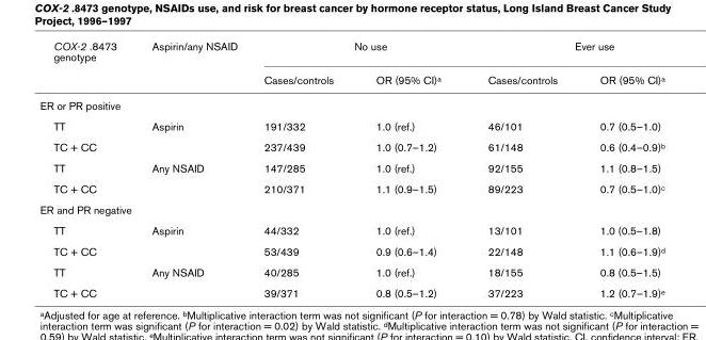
<table><thead><tr><td rowspan="2">COX-2 .8473 genotype</td><td rowspan="2">Aspirin/any NSAID</td><td colspan="2">No use</td><td colspan="2">Ever use</td></tr><tr><td>Cases/controls</td><td>OR (95% CI)a</td><td>Cases/controls</td><td>OR (95% CI)a</td></tr></thead><tbody><tr><td colspan="6">ER or PR positive</td></tr><tr><td>TT</td><td>Aspirin</td><td>191/332</td><td>1.0 (ref.)</td><td>46/101</td><td>0.7 (0.5–1.0)</td></tr><tr><td>TC + CC</td><td></td><td>237/439</td><td>1.0 (0.7–1.2)</td><td>61/148</td><td>0.6 (0.4–0.9)b</td></tr><tr><td>TT</td><td>Any NSAID</td><td>147/285</td><td>1.0 (ref.)</td><td>92/155</td><td>1.1 (0.8–1.5)</td></tr><tr><td>TC + CC</td><td></td><td>210/371</td><td>1.1 (0.9–1.5)</td><td>89/223</td><td>0.7 (0.5–1.0)c</td></tr><tr><td colspan="6">ER and PR negative</td></tr><tr><td>TT</td><td>Aspirin</td><td>44/332</td><td>1.0 (ref.)</td><td>13/101</td><td>1.0 (0.5–1.8)</td></tr><tr><td>TC + CC</td><td></td><td>53/439</td><td>0.9 (0.6–1.4)</td><td>22/148</td><td>1.1 (0.6–1.9)d</td></tr><tr><td>TT</td><td>Any NSAID</td><td>40/285</td><td>1.0 (ref.)</td><td>18/155</td><td>0.8 (0.5–1.5)</td></tr><tr><td>TC + CC</td><td></td><td>39/371</td><td>0.8 (0.5–1.2)</td><td>37/223</td><td>1.2 (0.7–1.9)e</td></tr></tbody></table>